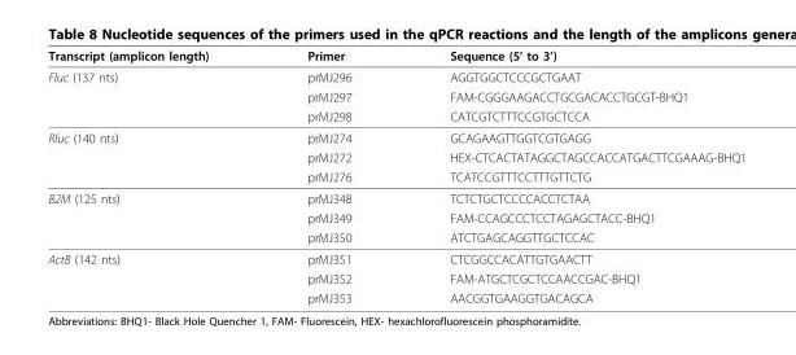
<table><thead><tr><td>Transcript (amplicon length)</td><td>Primer</td><td>Sequence (5’ to 3’)</td></tr></thead><tbody><tr><td rowspan="3">Fluc (137 nts)</td><td>prMJ296</td><td>AGGTGGCTCCCGCTGAAT</td></tr><tr><td>prMJ297</td><td>FAM-CGGGAAGACCTGCGACACCTGCGT-BHQ1</td></tr><tr><td>prMJ298</td><td>CATCGTCTTTCCGTGCTCCA</td></tr><tr><td rowspan="3">Rluc (140 nts)</td><td>prMJ274</td><td>GCAGAAGTTGGTCGTGAGG</td></tr><tr><td>prMJ272</td><td>HEX-CTCACTATAGGCTAGCCACCATGACTTCGAAAG-BHQ1</td></tr><tr><td>prMJ276</td><td>TCATCCGTTTCCTTTGTTCTG</td></tr><tr><td rowspan="3">B2M (125 nts)</td><td>prMJ348</td><td>TCTCTGCTCCCCACCTCTAA</td></tr><tr><td>prMJ349</td><td>FAM-CCAGCCCTCCTAGAGCTACC-BHQ1</td></tr><tr><td>prMJ350</td><td>ATCTGAGCAGGTTGCTCCAC</td></tr><tr><td rowspan="3">ActB (142 nts)</td><td>prMJ351</td><td>CTCGGCCACATTGTGAACTT</td></tr><tr><td>prMJ352</td><td>FAM-ATGCTCGCTCCAACCGAC-BHQ1</td></tr><tr><td>prMJ353</td><td>AACGGTGAAGGTGACAGCA</td></tr></tbody></table>